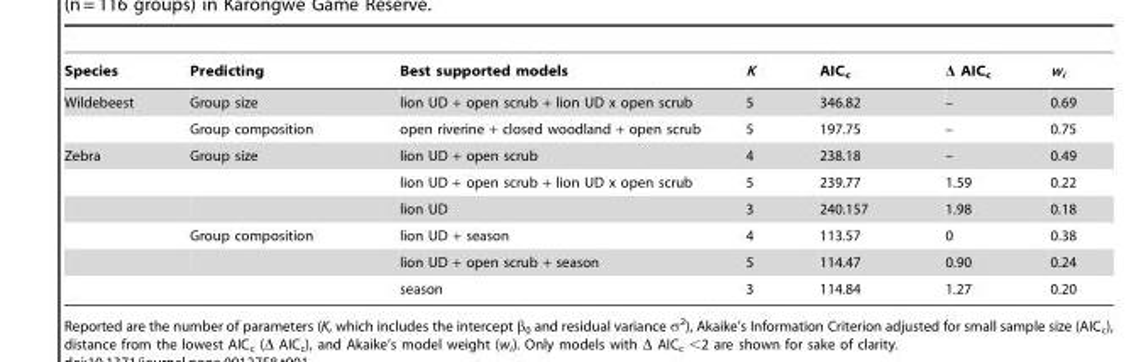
<table><thead><tr><td>Species</td><td>Predicting</td><td>Best supported models</td><td>K</td><td>AIC<sub>c</sub></td><td>Δ AIC<sub>c</sub></td><td>w<sub>i</sub></td></tr></thead><tbody><tr><td rowspan="2">Wildebeest</td><td>Group size</td><td>lion UD + open scrub + lion UD x open scrub</td><td>5</td><td>346.82</td><td>–</td><td>0.69</td></tr><tr><td>Group composition</td><td>open riverine + closed woodland + open scrub</td><td>5</td><td>197.75</td><td>–</td><td>0.75</td></tr><tr><td rowspan="6">Zebra</td><td>Group size</td><td>lion UD + open scrub</td><td>4</td><td>238.18</td><td>–</td><td>0.49</td></tr><tr><td></td><td>lion UD + open scrub + lion UD x open scrub</td><td>5</td><td>239.77</td><td>1.59</td><td>0.22</td></tr><tr><td></td><td>lion UD</td><td>3</td><td>240.157</td><td>1.98</td><td>0.18</td></tr><tr><td>Group composition</td><td>lion UD + season</td><td>4</td><td>113.57</td><td>0</td><td>0.38</td></tr><tr><td></td><td>lion UD + open scrub + season</td><td>5</td><td>114.47</td><td>0.90</td><td>0.24</td></tr><tr><td></td><td>season</td><td>3</td><td>114.84</td><td>1.27</td><td>0.20</td></tr></tbody></table>